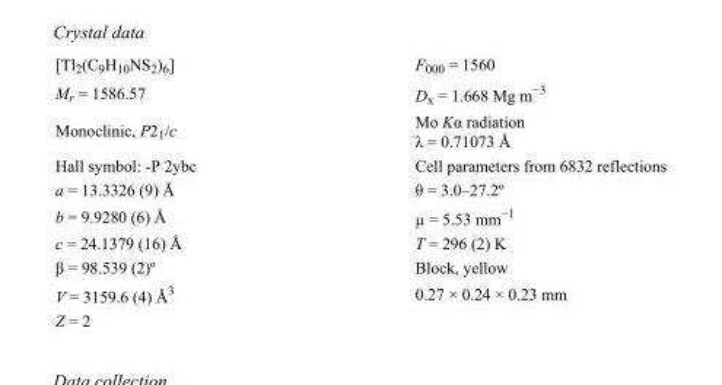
<table><tbody><tr><td>[Tl<sub>2</sub>(C<sub>9</sub>H<sub>10</sub>NS<sub>2</sub>)<sub>6</sub>]</td><td>F<sub>000</sub> = 1560</td></tr><tr><td>M<sub>r</sub> = 1586.57</td><td>D<sub>x</sub> = 1.668 Mg m<sup>−3</sup></td></tr><tr><td>Monoclinic, P2<sub>1</sub>/c</td><td>Mo Kα radiation λ = 0.71073 Å</td></tr><tr><td>Hall symbol: -P 2ybc</td><td>Cell parameters from 6832 reflections</td></tr><tr><td>a = 13.3326 (9) Å</td><td>θ = 3.0–27.2º</td></tr><tr><td>b = 9.9280 (6) Å</td><td>µ = 5.53 mm<sup>−1</sup></td></tr><tr><td>c = 24.1379 (16) Å</td><td>T = 296 (2) K</td></tr><tr><td>β = 98.539 (2)º</td><td>Block, yellow</td></tr><tr><td>V = 3159.6 (4) Å<sup>3</sup></td><td>0.27 × 0.24 × 0.23 mm</td></tr><tr><td>Z = 2</td><td></td></tr></tbody></table>